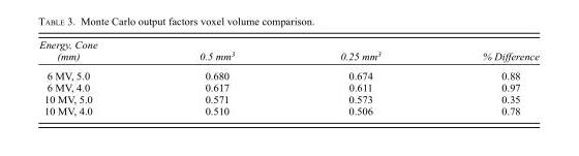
<table><thead><tr><td>Energy, Cone (mm)</td><td>0.5 mm<sup>3</sup></td><td>0.25 mm<sup>3</sup></td><td>% Difference</td></tr></thead><tbody><tr><td>6 MV, 5.0</td><td>0.680</td><td>0.674</td><td>0.88</td></tr><tr><td>6 MV, 4.0</td><td>0.617</td><td>0.611</td><td>0.97</td></tr><tr><td>10 MV, 5.0</td><td>0.571</td><td>0.573</td><td>0.35</td></tr><tr><td>10 MV, 4.0</td><td>0.510</td><td>0.506</td><td>0.78</td></tr></tbody></table>